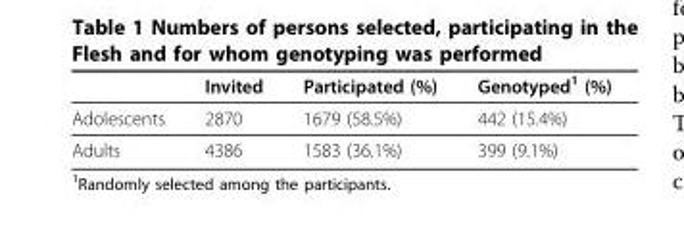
<table><thead><tr><td></td><td>Invited</td><td>Participated (%)</td><td>Genotyped<sup>1</sup> (%)</td></tr></thead><tbody><tr><td>Adolescents</td><td>2870</td><td>1679 (58.5%)</td><td>442 (15.4%)</td></tr><tr><td>Adults</td><td>4386</td><td>1583 (36.1%)</td><td>399 (9.1%)</td></tr></tbody></table>